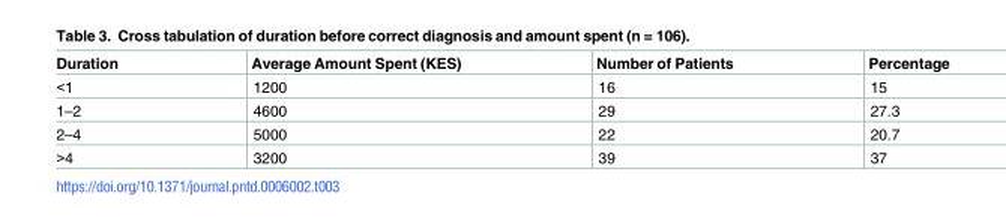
<table><thead><tr><td>Duration</td><td>Average Amount Spent (KES)</td><td>Number of Patients</td><td>Percentage</td></tr></thead><tbody><tr><td>&lt;1</td><td>1200</td><td>16</td><td>15</td></tr><tr><td>1–2</td><td>4600</td><td>29</td><td>27.3</td></tr><tr><td>2–4</td><td>5000</td><td>22</td><td>20.7</td></tr><tr><td>&gt;4</td><td>3200</td><td>39</td><td>37</td></tr></tbody></table>